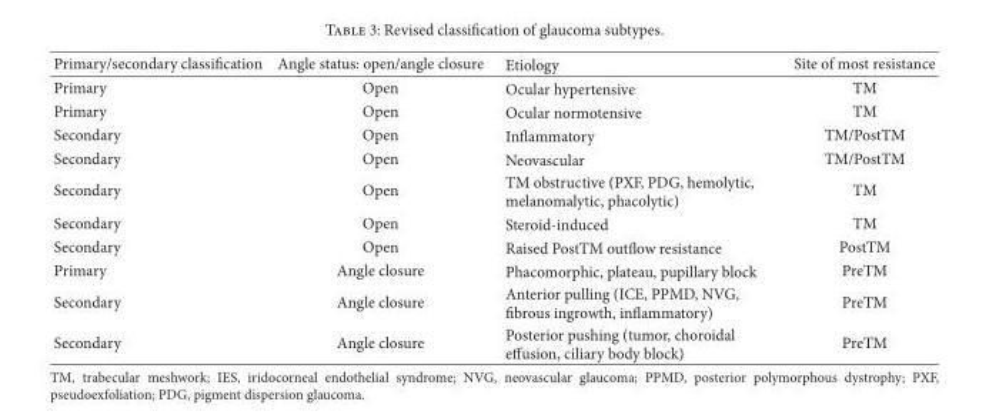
<table><thead><tr><td>Primary/secondary classification</td><td>Angle status: open/angle closure</td><td>Etiology</td><td>Site of most resistance</td></tr></thead><tbody><tr><td>Primary</td><td>Open</td><td>Ocular hypertensive</td><td>TM</td></tr><tr><td>Primary</td><td>Open</td><td>Ocular normotensive</td><td>TM</td></tr><tr><td>Secondary</td><td>Open</td><td>Inflammatory</td><td>TM/PostTM</td></tr><tr><td>Secondary</td><td>Open</td><td>Neovascular</td><td>TM/PostTM</td></tr><tr><td>Secondary</td><td>Open</td><td>TM obstructive (PXF, PDG, hemolytic, melanomalytic, phacolytic)</td><td>TM</td></tr><tr><td>Secondary</td><td>Open</td><td>Steroid-induced</td><td>TM</td></tr><tr><td>Secondary</td><td>Open</td><td>Raised PostTM outflow resistance</td><td>PostTM</td></tr><tr><td>Primary</td><td>Angle closure</td><td>Phacomorphic, plateau, pupillary block</td><td>PreTM</td></tr><tr><td>Secondary</td><td>Angle closure</td><td>Anterior pulling (ICE, PPMD, NVG, fibrous ingrowth, inflammatory)</td><td>PreTM</td></tr><tr><td>Secondary</td><td>Angle closure</td><td>Posterior pushing (tumor, choroidal effusion, ciliary body block)</td><td>PreTM</td></tr></tbody></table>